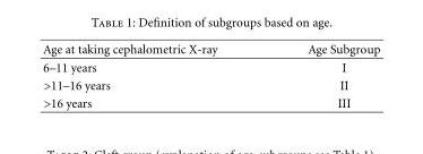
<table><thead><tr><td>Age at taking cephalometric X-ray</td><td>Age Subgroup</td></tr></thead><tbody><tr><td>6–11 years</td><td>I</td></tr><tr><td>&gt;11–16 years</td><td>II</td></tr><tr><td>&gt;16 years</td><td>III</td></tr></tbody></table>